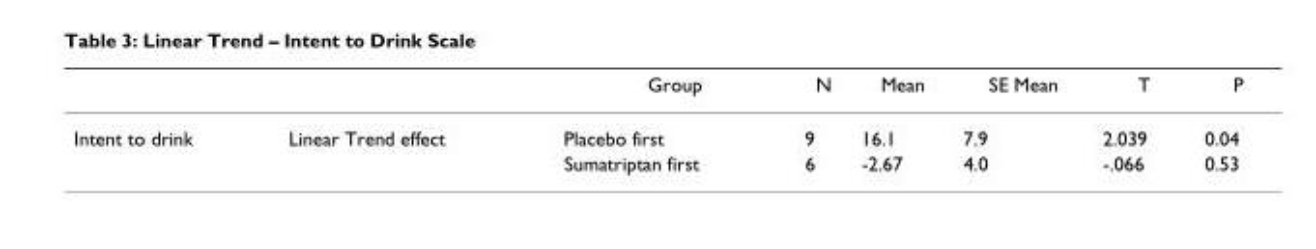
<table><thead><tr><td></td><td></td><td>Group</td><td>N</td><td>Mean</td><td>SE Mean</td><td>T</td><td>P</td></tr></thead><tbody><tr><td rowspan="2">Intent to drink</td><td>Linear Trend effect</td><td>Placebo first</td><td>9</td><td>16.1</td><td>7.9</td><td>2.039</td><td>0.04</td></tr><tr><td></td><td>Sumatriptan first</td><td>6</td><td>-2.67</td><td>4.0</td><td>-.066</td><td>0.53</td></tr></tbody></table>